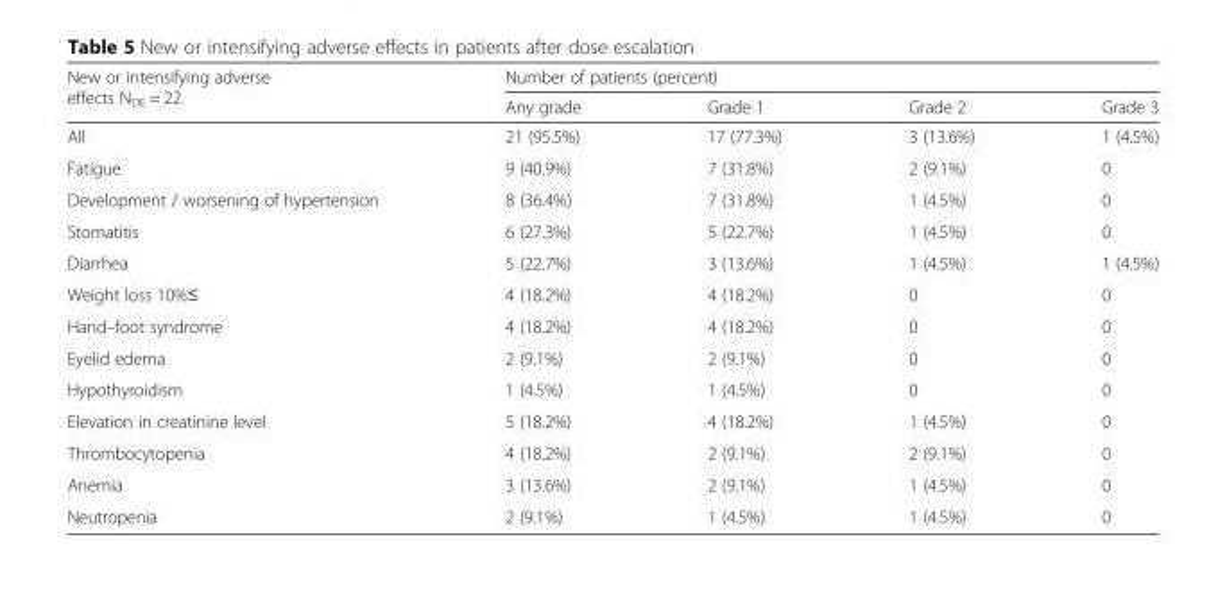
<table><thead><tr><td rowspan="2">New or intensifying adverse effects N<sub>DE</sub> = 22</td><td colspan="4">Number of patients (percent)</td></tr><tr><td>Any grade</td><td>Grade 1</td><td>Grade 2</td><td>Grade 3</td></tr></thead><tbody><tr><td>All</td><td>21 (95.5%)</td><td>17 (77.3%)</td><td>3 (13.6%)</td><td>1 (4.5%)</td></tr><tr><td>Fatigue</td><td>9 (40.9%)</td><td>7 (31.8%)</td><td>2 (9.1%)</td><td>0</td></tr><tr><td>Development / worsening of hypertension</td><td>8 (36.4%)</td><td>7 (31.8%)</td><td>1 (4.5%)</td><td>0</td></tr><tr><td>Stomatitis</td><td>6 (27.3%)</td><td>5 (22.7%)</td><td>1 (4.5%)</td><td>0</td></tr><tr><td>Diarrhea</td><td>5 (22.7%)</td><td>3 (13.6%)</td><td>1 (4.5%)</td><td>1 (4.5%)</td></tr><tr><td>Weight loss 10%≤</td><td>4 (18.2%)</td><td>4 (18.2%)</td><td>0</td><td>0</td></tr><tr><td>Hand–foot syndrome</td><td>4 (18.2%)</td><td>4 (18.2%)</td><td>0</td><td>0</td></tr><tr><td>Eyelid edema</td><td>2 (9.1%)</td><td>2 (9.1%)</td><td>0</td><td>0</td></tr><tr><td>Hypothyroidism</td><td>1 (4.5%)</td><td>1 (4.5%)</td><td>0</td><td>0</td></tr><tr><td>Elevation in creatinine level</td><td>5 (18.2%)</td><td>4 (18.2%)</td><td>1 (4.5%)</td><td>0</td></tr><tr><td>Thrombocytopenia</td><td>4 (18.2%)</td><td>2 (9.1%)</td><td>2 (9.1%)</td><td>0</td></tr><tr><td>Anemia</td><td>3 (13.6%)</td><td>2 (9.1%)</td><td>1 (4.5%)</td><td>0</td></tr><tr><td>Neutropenia</td><td>2 (9.1%)</td><td>1 (4.5%)</td><td>1 (4.5%)</td><td>0</td></tr></tbody></table>